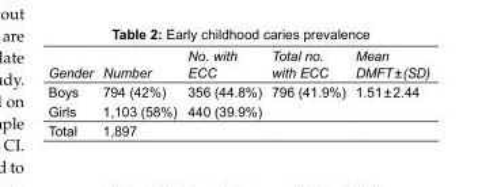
<table><tbody><tr><td>Gender</td><td>Number</td><td>No. with ECC</td><td>Total no. with ECC</td><td>Mean DMFT ± (SD)</td></tr><tr><td>Boys</td><td>794 (42%)</td><td>356 (44.8%)</td><td>796 (41.9%)</td><td>1.51 ± 2.44</td></tr><tr><td>Girls</td><td>1,103 (58%)</td><td>440 (39.9%)</td><td></td><td></td></tr><tr><td>Total</td><td>1,897</td><td></td><td></td><td></td></tr></tbody></table>